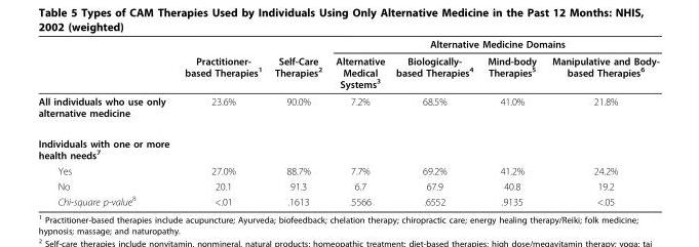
<table><thead><tr><td rowspan="2"></td><td rowspan="2">Practitioner- based Therapies<sup>1</sup></td><td rowspan="2">Self-Care Therapies<sup>2</sup></td><td colspan="4">Alternative Medicine Domains</td></tr><tr><td>Alternative Medical Systems<sup>3</sup></td><td>Biologically- based Therapies<sup>4</sup></td><td>Mind-body Therapies<sup>5</sup></td><td>Manipulative and Body- based Therapies<sup>6</sup></td></tr></thead><tbody><tr><td>All individuals who use only alternative medicine</td><td>23.6%</td><td>90.0%</td><td>7.2%</td><td>68.5%</td><td>41.0%</td><td>21.8%</td></tr><tr><td colspan="7">Individuals with one or more health needs<sup>7</sup></td></tr><tr><td>Yes</td><td>27.0%</td><td>88.7%</td><td>7.7%</td><td>69.2%</td><td>41.2%</td><td>24.2%</td></tr><tr><td>No</td><td>20.1</td><td>91.3</td><td>6.7</td><td>67.9</td><td>40.8</td><td>19.2</td></tr><tr><td>Chi-square p-value<sup>8</sup></td><td>&lt;.01</td><td>.1613</td><td>.5566</td><td>.6552</td><td>.9135</td><td>&lt;.05</td></tr></tbody></table>